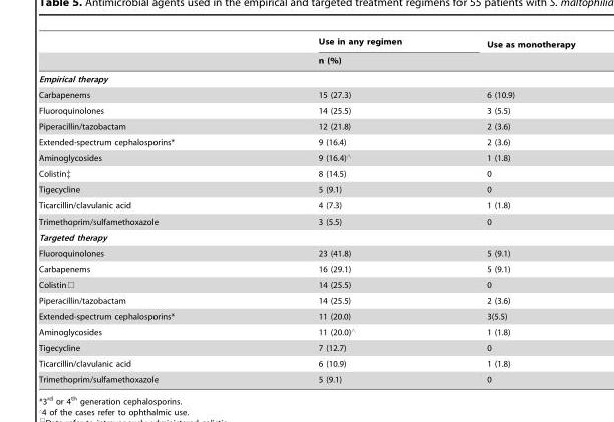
<table><thead><tr><td rowspan="2"></td><td>Use in any regimen</td><td>Use as monotherapy</td></tr><tr><td colspan="2">n (%)</td></tr></thead><tbody><tr><td colspan="3">Empirical therapy</td></tr><tr><td>Carbapenems</td><td>15 (27.3)</td><td>6 (10.9)</td></tr><tr><td>Fluoroquinolones</td><td>14 (25.5)</td><td>3 (5.5)</td></tr><tr><td>Piperacillin/tazobactam</td><td>12 (21.8)</td><td>2 (3.6)</td></tr><tr><td>Extended-spectrum cephalosporins*</td><td>9 (16.4)</td><td>2 (3.6)</td></tr><tr><td>Aminoglycosides</td><td>9 (16.4)‘</td><td>1 (1.8)</td></tr><tr><td>Colistin‡</td><td>8 (14.5)</td><td>0</td></tr><tr><td>Tigecycline</td><td>5 (9.1)</td><td>0</td></tr><tr><td>Ticarcillin/clavulanic acid</td><td>4 (7.3)</td><td>1 (1.8)</td></tr><tr><td>Trimethoprim/sulfamethoxazole</td><td>3 (5.5)</td><td>0</td></tr><tr><td colspan="3">Targeted therapy</td></tr><tr><td>Fluoroquinolones</td><td>23 (41.8)</td><td>5 (9.1)</td></tr><tr><td>Carbapenems</td><td>16 (29.1)</td><td>5 (9.1)</td></tr><tr><td>Colistin□</td><td>14 (25.5)</td><td>0</td></tr><tr><td>Piperacillin/tazobactam</td><td>14 (25.5)</td><td>2 (3.6)</td></tr><tr><td>Extended-spectrum cephalosporins*</td><td>11 (20.0)</td><td>3(5.5)</td></tr><tr><td>Aminoglycosides</td><td>11 (20.0)‘</td><td>1 (1.8)</td></tr><tr><td>Tigecycline</td><td>7 (12.7)</td><td>0</td></tr><tr><td>Ticarcillin/clavulanic acid</td><td>6 (10.9)</td><td>1 (1.8)</td></tr><tr><td>Trimethoprim/sulfamethoxazole</td><td>5 (9.1)</td><td>0</td></tr></tbody></table>